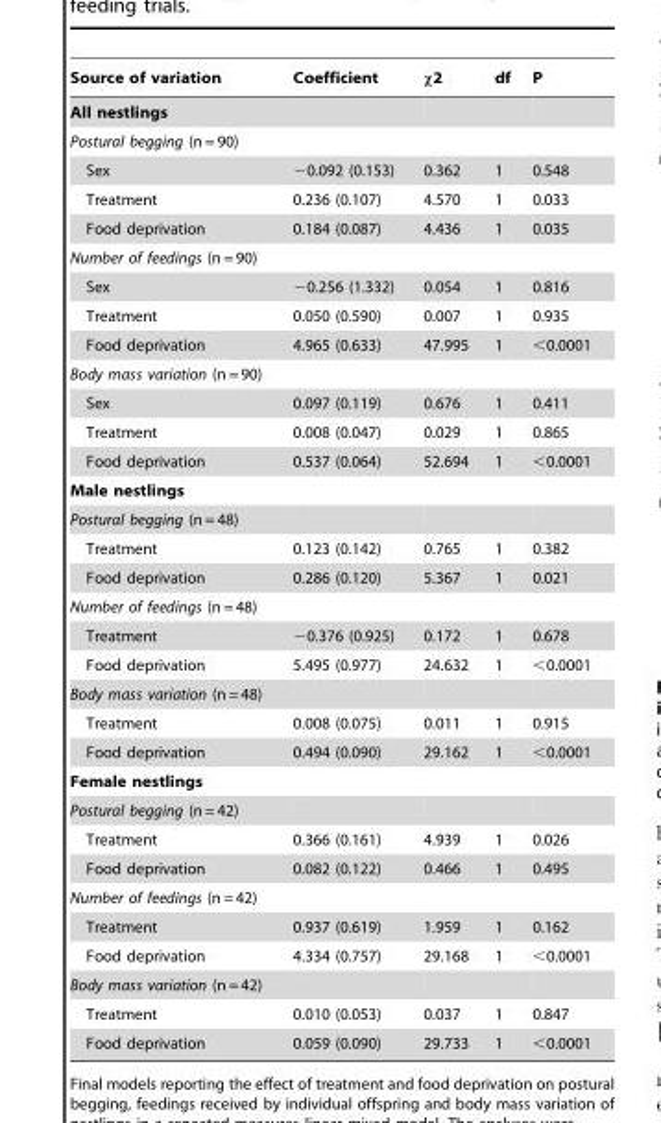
<table><thead><tr><td>Source of variation</td><td>Coefficient</td><td>χ2</td><td>df</td><td>P</td></tr></thead><tbody><tr><td colspan="5">All nestlings</td></tr><tr><td colspan="5">Postural begging (n = 90)</td></tr><tr><td>Sex</td><td>−0.092 (0.153)</td><td>0.362</td><td>1</td><td>0.548</td></tr><tr><td>Treatment</td><td>0.236 (0.107)</td><td>4.570</td><td>1</td><td>0.033</td></tr><tr><td>Food deprivation</td><td>0.184 (0.087)</td><td>4.436</td><td>1</td><td>0.035</td></tr><tr><td colspan="5">Number of feedings (n = 90)</td></tr><tr><td>Sex</td><td>−0.256 (1.332)</td><td>0.054</td><td>1</td><td>0.816</td></tr><tr><td>Treatment</td><td>0.050 (0.590)</td><td>0.007</td><td>1</td><td>0.935</td></tr><tr><td>Food deprivation</td><td>4.965 (0.633)</td><td>47.995</td><td>1</td><td>&lt;0.0001</td></tr><tr><td colspan="5">Body mass variation (n = 90)</td></tr><tr><td>Sex</td><td>0.097 (0.119)</td><td>0.676</td><td>1</td><td>0.411</td></tr><tr><td>Treatment</td><td>0.008 (0.047)</td><td>0.029</td><td>1</td><td>0.865</td></tr><tr><td>Food deprivation</td><td>0.537 (0.064)</td><td>52.694</td><td>1</td><td>&lt;0.0001</td></tr><tr><td colspan="5">Male nestlings</td></tr><tr><td colspan="5">Postural begging (n = 48)</td></tr><tr><td>Treatment</td><td>0.123 (0.142)</td><td>0.765</td><td>1</td><td>0.382</td></tr><tr><td>Food deprivation</td><td>0.286 (0.120)</td><td>5.367</td><td>1</td><td>0.021</td></tr><tr><td colspan="5">Number of feedings (n = 48)</td></tr><tr><td>Treatment</td><td>−0.376 (0.925)</td><td>0.172</td><td>1</td><td>0.678</td></tr><tr><td>Food deprivation</td><td>5.495 (0.977)</td><td>24.632</td><td>1</td><td>&lt;0.0001</td></tr><tr><td colspan="5">Body mass variation (n = 48)</td></tr><tr><td>Treatment</td><td>0.008 (0.075)</td><td>0.011</td><td>1</td><td>0.915</td></tr><tr><td>Food deprivation</td><td>0.494 (0.090)</td><td>29.162</td><td>1</td><td>&lt;0.0001</td></tr><tr><td colspan="5">Female nestlings</td></tr><tr><td colspan="5">Postural begging (n = 42)</td></tr><tr><td>Treatment</td><td>0.366 (0.161)</td><td>4.939</td><td>1</td><td>0.026</td></tr><tr><td>Food deprivation</td><td>0.082 (0.122)</td><td>0.466</td><td>1</td><td>0.495</td></tr><tr><td colspan="5">Number of feedings (n = 42)</td></tr><tr><td>Treatment</td><td>0.937 (0.619)</td><td>1.959</td><td>1</td><td>0.162</td></tr><tr><td>Food deprivation</td><td>4.334 (0.757)</td><td>29.168</td><td>1</td><td>&lt;0.0001</td></tr><tr><td colspan="5">Body mass variation (n = 42)</td></tr><tr><td>Treatment</td><td>0.010 (0.053)</td><td>0.037</td><td>1</td><td>0.847</td></tr><tr><td>Food deprivation</td><td>0.059 (0.090)</td><td>29.733</td><td>1</td><td>&lt;0.0001</td></tr></tbody></table>